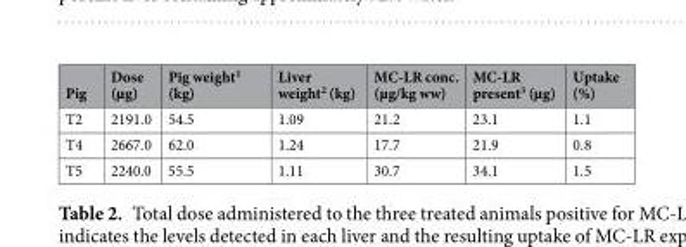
<table><thead><tr><td>Pig</td><td>Dose (µg)</td><td>Pig weight<sup>1</sup> (kg)</td><td>Liver weight<sup>2</sup> (kg)</td><td>MC-LR conc. (µg/kg ww)</td><td>MC-LR present<sup>3</sup> (µg)</td><td>Uptake (%)</td></tr></thead><tbody><tr><td>T2</td><td>2191.0</td><td>54.5</td><td>1.09</td><td>21.2</td><td>23.1</td><td>1.1</td></tr><tr><td>T4</td><td>2667.0</td><td>62.0</td><td>1.24</td><td>17.7</td><td>21.9</td><td>0.8</td></tr><tr><td>T5</td><td>2240.0</td><td>55.5</td><td>1.11</td><td>30.7</td><td>34.1</td><td>1.5</td></tr></tbody></table>